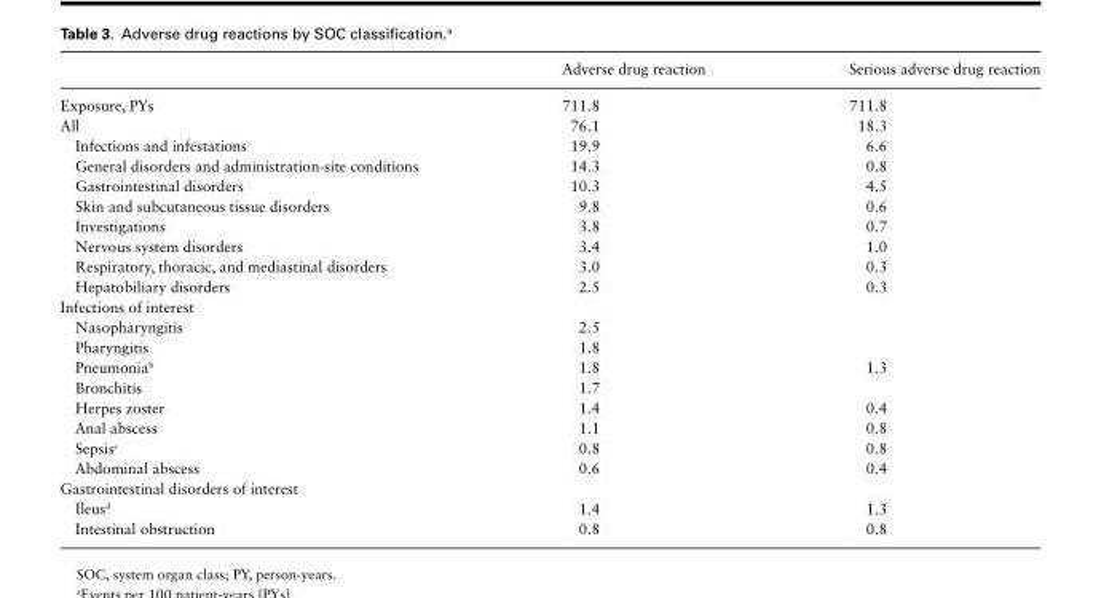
<table><thead><tr><td></td><td>Adverse drug reaction</td><td>Serious adverse drug reaction</td></tr></thead><tbody><tr><td>Exposure, PYs</td><td>711.8</td><td>711.8</td></tr><tr><td>All</td><td>76.1</td><td>18.3</td></tr><tr><td>Infections and infestations</td><td>19.9</td><td>6.6</td></tr><tr><td>General disorders and administration-site conditions</td><td>14.3</td><td>0.8</td></tr><tr><td>Gastrointestinal disorders</td><td>10.3</td><td>4.5</td></tr><tr><td>Skin and subcutaneous tissue disorders</td><td>9.8</td><td>0.6</td></tr><tr><td>Investigations</td><td>3.8</td><td>0.7</td></tr><tr><td>Nervous system disorders</td><td>3.4</td><td>1.0</td></tr><tr><td>Respiratory, thoracic, and mediastinal disorders</td><td>3.0</td><td>0.3</td></tr><tr><td>Hepatobiliary disorders</td><td>2.5</td><td>0.3</td></tr><tr><td colspan="3">Infections of interest</td></tr><tr><td>Nasopharyngitis</td><td>2.5</td><td></td></tr><tr><td>Pharyngitis</td><td>1.8</td><td></td></tr><tr><td>Pneumonia<sup>b</sup></td><td>1.8</td><td>1.3</td></tr><tr><td>Bronchitis</td><td>1.7</td><td></td></tr><tr><td>Herpes zoster</td><td>1.4</td><td>0.4</td></tr><tr><td>Anal abscess</td><td>1.1</td><td>0.8</td></tr><tr><td>Sepsis<sup>c</sup></td><td>0.8</td><td>0.8</td></tr><tr><td>Abdominal abscess</td><td>0.6</td><td>0.4</td></tr><tr><td colspan="3">Gastrointestinal disorders of interest</td></tr><tr><td>Ileus<sup>d</sup></td><td>1.4</td><td>1.3</td></tr><tr><td>Intestinal obstruction</td><td>0.8</td><td>0.8</td></tr></tbody></table>